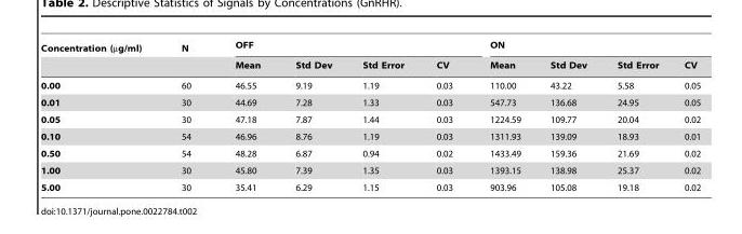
<table><thead><tr><td rowspan="2">Concentration (µg/ml)</td><td rowspan="2">N</td><td colspan="4">OFF</td><td colspan="4">ON</td></tr><tr><td>Mean</td><td>Std Dev</td><td>Std Error</td><td>CV</td><td>Mean</td><td>Std Dev</td><td>Std Error</td><td>CV</td></tr></thead><tbody><tr><td>0.00</td><td>60</td><td>46.55</td><td>9.19</td><td>1.19</td><td>0.03</td><td>110.00</td><td>43.22</td><td>5.58</td><td>0.05</td></tr><tr><td>0.01</td><td>30</td><td>44.69</td><td>7.28</td><td>1.33</td><td>0.03</td><td>547.73</td><td>136.68</td><td>24.95</td><td>0.05</td></tr><tr><td>0.05</td><td>30</td><td>47.18</td><td>7.87</td><td>1.44</td><td>0.03</td><td>1224.59</td><td>109.77</td><td>20.04</td><td>0.02</td></tr><tr><td>0.10</td><td>54</td><td>46.96</td><td>8.76</td><td>1.19</td><td>0.03</td><td>1311.93</td><td>139.09</td><td>18.93</td><td>0.01</td></tr><tr><td>0.50</td><td>54</td><td>48.28</td><td>6.87</td><td>0.94</td><td>0.02</td><td>1433.49</td><td>159.36</td><td>21.69</td><td>0.02</td></tr><tr><td>1.00</td><td>30</td><td>45.80</td><td>7.39</td><td>1.35</td><td>0.03</td><td>1393.15</td><td>138.98</td><td>25.37</td><td>0.02</td></tr><tr><td>5.00</td><td>30</td><td>35.41</td><td>6.29</td><td>1.15</td><td>0.03</td><td>903.96</td><td>105.08</td><td>19.18</td><td>0.02</td></tr></tbody></table>